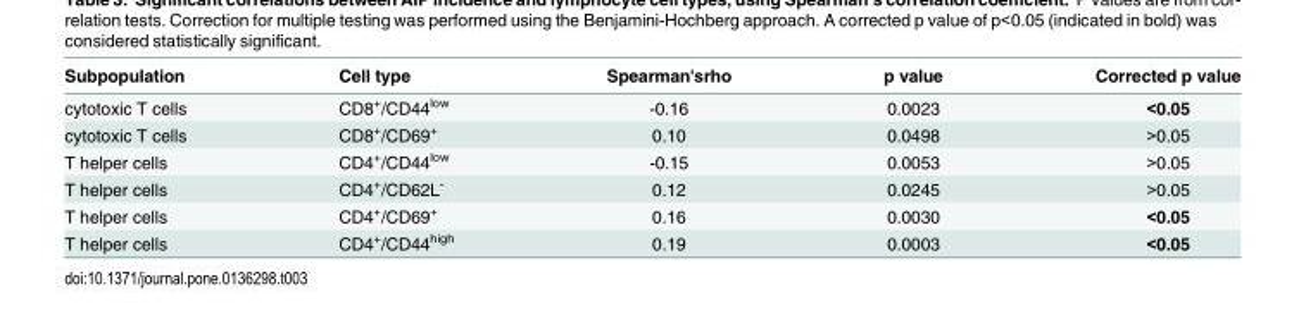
<table><thead><tr><td>Subpopulation</td><td>Cell type</td><td>Spearman&#x27;srho</td><td>p value</td><td>Corrected p value</td></tr></thead><tbody><tr><td>cytotoxic T cells</td><td>CD8<sup>+</sup>/CD44<sup>low</sup></td><td>-0.16</td><td>0.0023</td><td>&lt;0.05</td></tr><tr><td>cytotoxic T cells</td><td>CD8<sup>+</sup>/CD69<sup>+</sup></td><td>0.10</td><td>0.0498</td><td>&gt;0.05</td></tr><tr><td>T helper cells</td><td>CD4<sup>+</sup>/CD44<sup>low</sup></td><td>-0.15</td><td>0.0053</td><td>&gt;0.05</td></tr><tr><td>T helper cells</td><td>CD4<sup>+</sup>/CD62L<sup>-</sup></td><td>0.12</td><td>0.0245</td><td>&gt;0.05</td></tr><tr><td>T helper cells</td><td>CD4<sup>+</sup>/CD69<sup>+</sup></td><td>0.16</td><td>0.0030</td><td>&lt;0.05</td></tr><tr><td>T helper cells</td><td>CD4<sup>+</sup>/CD44<sup>high</sup></td><td>0.19</td><td>0.0003</td><td>&lt;0.05</td></tr></tbody></table>